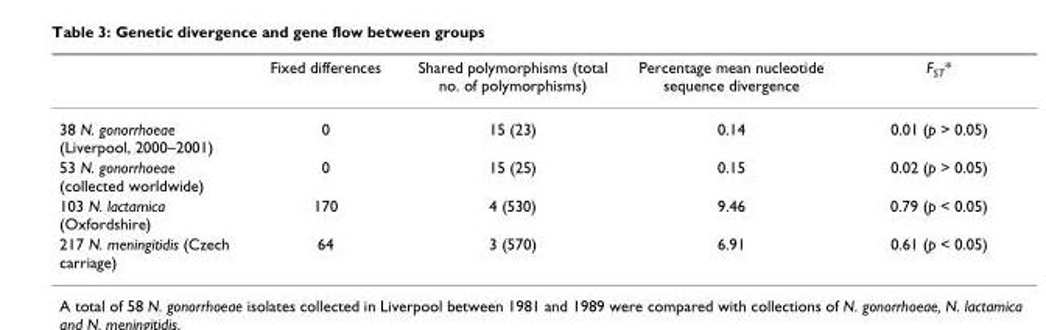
<table><thead><tr><td></td><td>Fixed differences</td><td>Shared polymorphisms (total no. of polymorphisms)</td><td>Percentage mean nucleotide sequence divergence</td><td>F<sub>ST</sub>*</td></tr></thead><tbody><tr><td>38 N. gonorrhoeae (Liverpool, 2000–2001)</td><td>0</td><td>15 (23)</td><td>0.14</td><td>0.01 (p &gt; 0.05)</td></tr><tr><td>53 N. gonorrhoeae (collected worldwide)</td><td>0</td><td>15 (25)</td><td>0.15</td><td>0.02 (p &gt; 0.05)</td></tr><tr><td>103 N. lactamica (Oxfordshire)</td><td>170</td><td>4 (530)</td><td>9.46</td><td>0.79 (p &lt; 0.05)</td></tr><tr><td>217 N. meningitidis (Czech carriage)</td><td>64</td><td>3 (570)</td><td>6.91</td><td>0.61 (p &lt; 0.05)</td></tr></tbody></table>